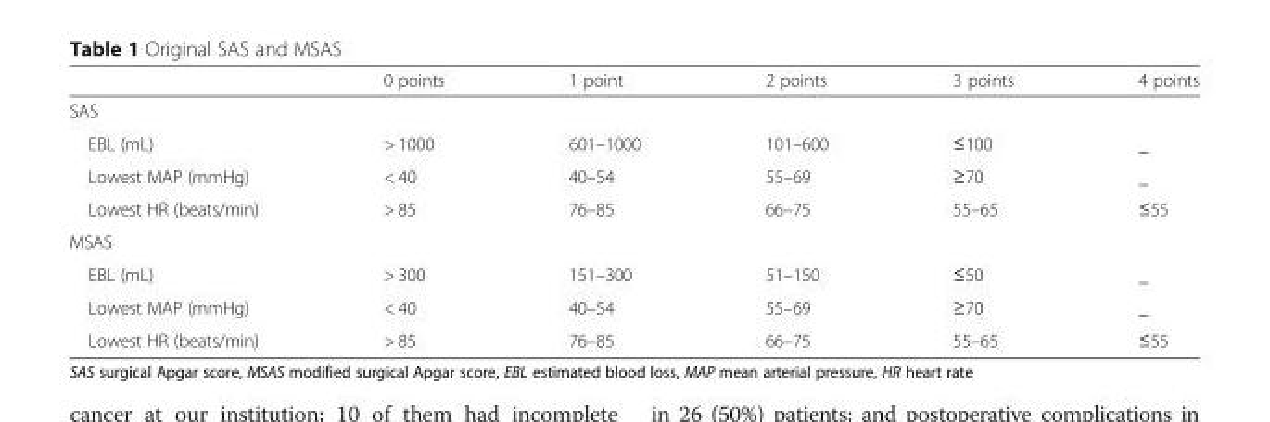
<table><thead><tr><td></td><td>0 points</td><td>1 point</td><td>2 points</td><td>3 points</td><td>4 points</td></tr></thead><tbody><tr><td colspan="6">SAS</td></tr><tr><td>EBL (mL)</td><td>&gt; 1000</td><td>601–1000</td><td>101–600</td><td>≤100</td><td>_</td></tr><tr><td>Lowest MAP (mmHg)</td><td>&lt; 40</td><td>40–54</td><td>55–69</td><td>≥70</td><td>_</td></tr><tr><td>Lowest HR (beats/min)</td><td>&gt; 85</td><td>76–85</td><td>66–75</td><td>55–65</td><td>≤55</td></tr><tr><td colspan="6">MSAS</td></tr><tr><td>EBL (mL)</td><td>&gt; 300</td><td>151–300</td><td>51–150</td><td>≤50</td><td>_</td></tr><tr><td>Lowest MAP (mmHg)</td><td>&lt; 40</td><td>40–54</td><td>55–69</td><td>≥70</td><td>_</td></tr><tr><td>Lowest HR (beats/min)</td><td>&gt; 85</td><td>76–85</td><td>66–75</td><td>55–65</td><td>≤55</td></tr></tbody></table>